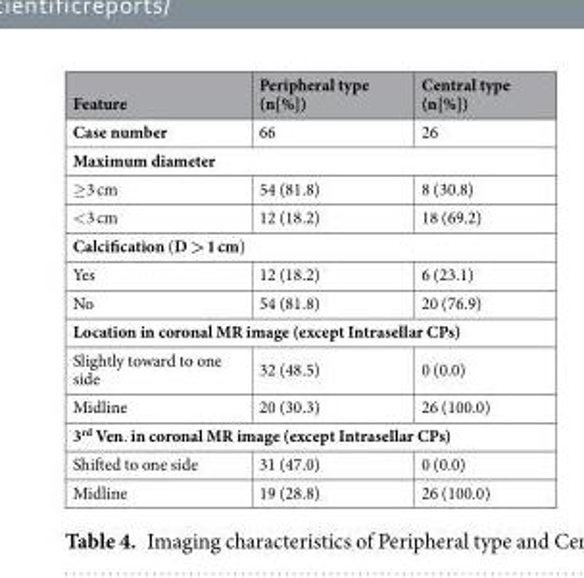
<table><thead><tr><td>Feature</td><td>Peripheral type (n[%])</td><td>Central type (n[%])</td></tr></thead><tbody><tr><td>Case number</td><td>66</td><td>26</td></tr><tr><td colspan="3">Maximum diameter</td></tr><tr><td>≥3 cm</td><td>54 (81.8)</td><td>8 (30.8)</td></tr><tr><td>&lt;3 cm</td><td>12 (18.2)</td><td>18 (69.2)</td></tr><tr><td colspan="3">Calcification (D &gt; 1 cm)</td></tr><tr><td>Yes</td><td>12 (18.2)</td><td>6 (23.1)</td></tr><tr><td>No</td><td>54 (81.8)</td><td>20 (76.9)</td></tr><tr><td colspan="3">Location in coronal MR image (except Intrasellar CPs)</td></tr><tr><td>Slightly toward to one side</td><td>32 (48.5)</td><td>0 (0.0)</td></tr><tr><td>Midline</td><td>20 (30.3)</td><td>26 (100.0)</td></tr><tr><td colspan="3">3<sup>rd</sup> Ven. in coronal MR image (except Intrasellar CPs)</td></tr><tr><td>Shifted to one side</td><td>31 (47.0)</td><td>0 (0.0)</td></tr><tr><td>Midline</td><td>19 (28.8)</td><td>26 (100.0)</td></tr></tbody></table>